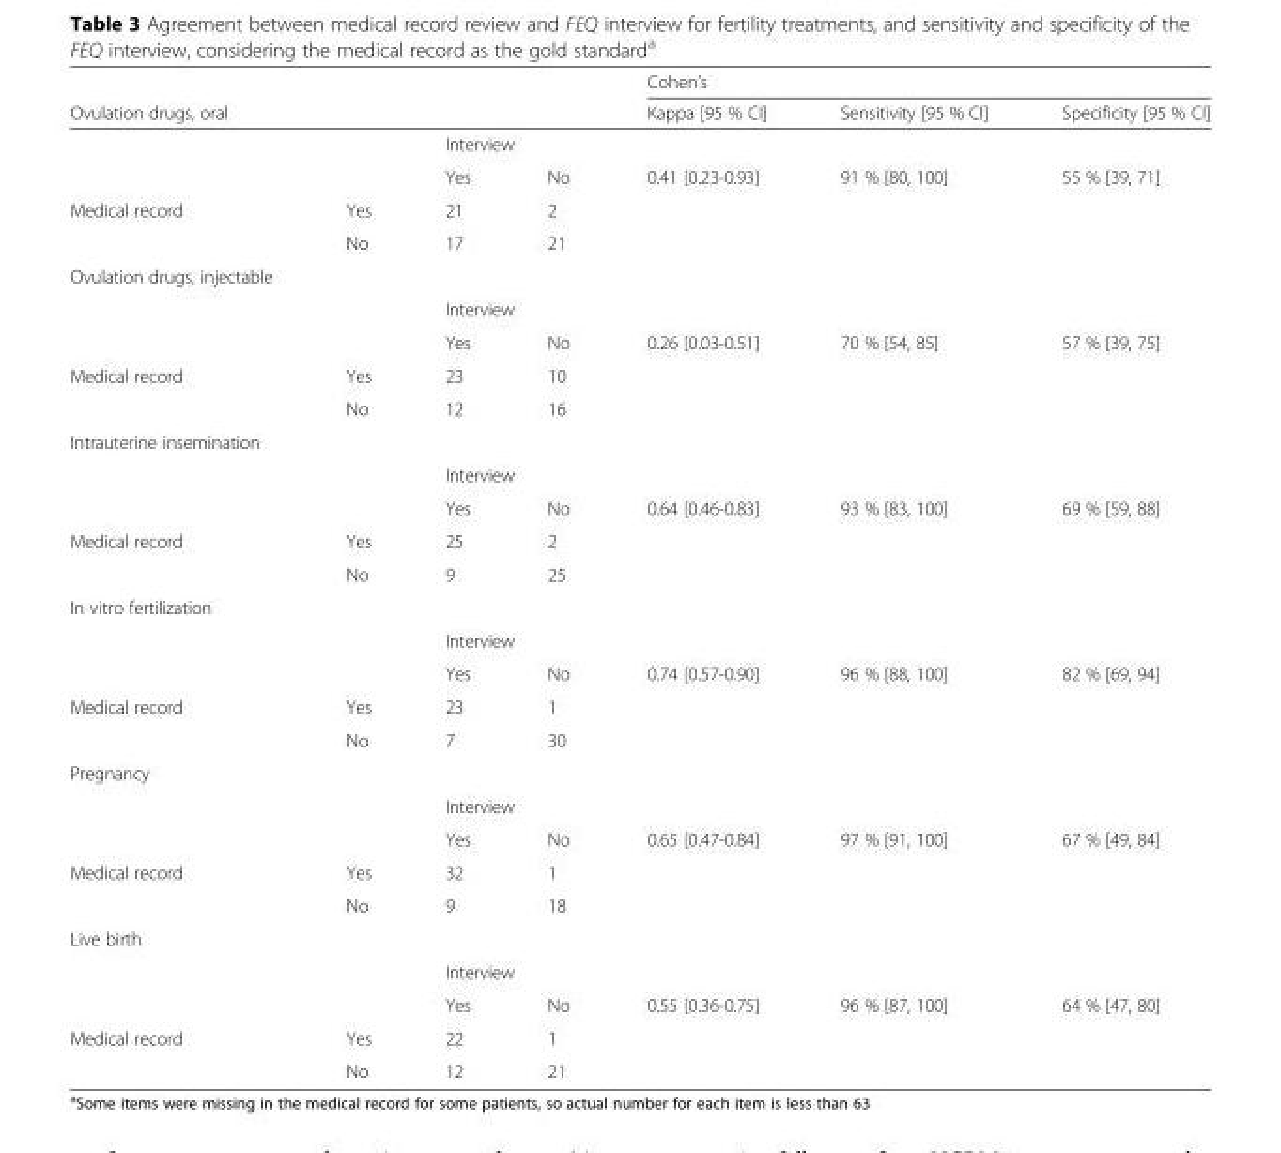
<table><thead><tr><td rowspan="2">Ovulation drugs, oral</td><td rowspan="2"></td><td rowspan="2"></td><td rowspan="2"></td><td colspan="3">Cohen’s</td></tr><tr><td>Kappa [95 % CI]</td><td>Sensitivity [95 % CI]</td><td>Specificity [95 % CI]</td></tr></thead><tbody><tr><td></td><td></td><td colspan="2">Interview</td><td></td><td></td><td></td></tr><tr><td></td><td></td><td>Yes</td><td>No</td><td>0.41 [0.23-0.93]</td><td>91 % [80, 100]</td><td>55 % [39, 71]</td></tr><tr><td rowspan="2">Medical record</td><td>Yes</td><td>21</td><td>2</td><td></td><td></td><td></td></tr><tr><td>No</td><td>17</td><td>21</td><td></td><td></td><td></td></tr><tr><td colspan="7">Ovulation drugs, injectable</td></tr><tr><td></td><td></td><td colspan="2">Interview</td><td></td><td></td><td></td></tr><tr><td></td><td></td><td>Yes</td><td>No</td><td>0.26 [0.03-0.51]</td><td>70 % [54, 85]</td><td>57 % [39, 75]</td></tr><tr><td rowspan="2">Medical record</td><td>Yes</td><td>23</td><td>10</td><td></td><td></td><td></td></tr><tr><td>No</td><td>12</td><td>16</td><td></td><td></td><td></td></tr><tr><td colspan="7">Intrauterine insemination</td></tr><tr><td></td><td></td><td colspan="2">Interview</td><td></td><td></td><td></td></tr><tr><td></td><td></td><td>Yes</td><td>No</td><td>0.64 [0.46-0.83]</td><td>93 % [83, 100]</td><td>69 % [59, 88]</td></tr><tr><td rowspan="2">Medical record</td><td>Yes</td><td>25</td><td>2</td><td></td><td></td><td></td></tr><tr><td>No</td><td>9</td><td>25</td><td></td><td></td><td></td></tr><tr><td colspan="7">In vitro fertilization</td></tr><tr><td></td><td></td><td colspan="2">Interview</td><td></td><td></td><td></td></tr><tr><td></td><td></td><td>Yes</td><td>No</td><td>0.74 [0.57-0.90]</td><td>96 % [88, 100]</td><td>82 % [69, 94]</td></tr><tr><td rowspan="2">Medical record</td><td>Yes</td><td>23</td><td>1</td><td></td><td></td><td></td></tr><tr><td>No</td><td>7</td><td>30</td><td></td><td></td><td></td></tr><tr><td colspan="7">Pregnancy</td></tr><tr><td></td><td></td><td colspan="2">Interview</td><td></td><td></td><td></td></tr><tr><td></td><td></td><td>Yes</td><td>No</td><td>0.65 [0.47-0.84]</td><td>97 % [91, 100]</td><td>67 % [49, 84]</td></tr><tr><td rowspan="2">Medical record</td><td>Yes</td><td>32</td><td>1</td><td></td><td></td><td></td></tr><tr><td>No</td><td>9</td><td>18</td><td></td><td></td><td></td></tr><tr><td colspan="7">Live birth</td></tr><tr><td></td><td></td><td colspan="2">Interview</td><td></td><td></td><td></td></tr><tr><td></td><td></td><td>Yes</td><td>No</td><td>0.55 [0.36-0.75]</td><td>96 % [87, 100]</td><td>64 % [47, 80]</td></tr><tr><td rowspan="2">Medical record</td><td>Yes</td><td>22</td><td>1</td><td></td><td></td><td></td></tr><tr><td>No</td><td>12</td><td>21</td><td></td><td></td><td></td></tr></tbody></table>